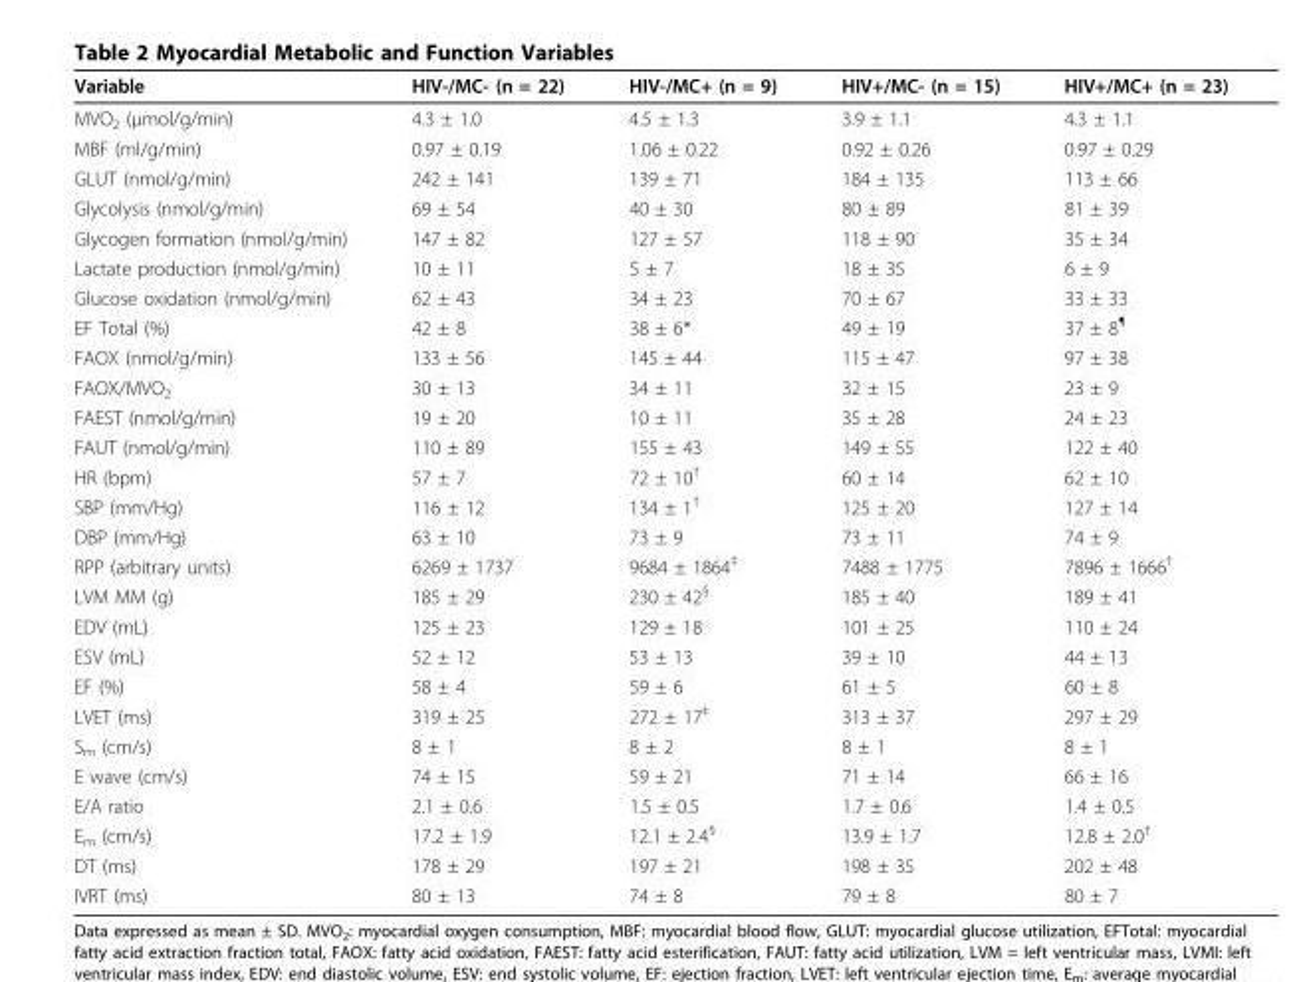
<table><thead><tr><td>Variable</td><td>HIV-/MC- (n = 22)</td><td>HIV-/MC+ (n = 9)</td><td>HIV+/MC- (n = 15)</td><td>HIV+/MC+ (n = 23)</td></tr></thead><tbody><tr><td>MVO<sub>2</sub> (μmol/g/min)</td><td>4.3 ± 1.0</td><td>4.5 ± 1.3</td><td>3.9 ± 1.1</td><td>4.3 ± 1.1</td></tr><tr><td>MBF (ml/g/min)</td><td>0.97 ± 0.19</td><td>1.06 ± 0.22</td><td>0.92 ± 0.26</td><td>0.97 ± 0.29</td></tr><tr><td>GLUT (nmol/g/min)</td><td>242 ± 141</td><td>139 ± 71</td><td>184 ± 135</td><td>113 ± 66</td></tr><tr><td>Glycolysis (nmol/g/min)</td><td>69 ± 54</td><td>40 ± 30</td><td>80 ± 89</td><td>81 ± 39</td></tr><tr><td>Glycogen formation (nmol/g/min)</td><td>147 ± 82</td><td>127 ± 57</td><td>118 ± 90</td><td>35 ± 34</td></tr><tr><td>Lactate production (nmol/g/min)</td><td>10 ± 11</td><td>5 ± 7</td><td>18 ± 35</td><td>6 ± 9</td></tr><tr><td>Glucose oxidation (nmol/g/min)</td><td>62 ± 43</td><td>34 ± 23</td><td>70 ± 67</td><td>33 ± 33</td></tr><tr><td>EF Total (%)</td><td>42 ± 8</td><td>38 ± 6*</td><td>49 ± 19</td><td>37 ± 8<sup>¶</sup></td></tr><tr><td>FAOX (nmol/g/min)</td><td>133 ± 56</td><td>145 ± 44</td><td>115 ± 47</td><td>97 ± 38</td></tr><tr><td>FAOX/MVO<sub>2</sub></td><td>30 ± 13</td><td>34 ± 11</td><td>32 ± 15</td><td>23 ± 9</td></tr><tr><td>FAEST (nmol/g/min)</td><td>19 ± 20</td><td>10 ± 11</td><td>35 ± 28</td><td>24 ± 23</td></tr><tr><td>FAUT (nmol/g/min)</td><td>110 ± 89</td><td>155 ± 43</td><td>149 ± 55</td><td>122 ± 40</td></tr><tr><td>HR (bpm)</td><td>57 ± 7</td><td>72 ± 10<sup>†</sup></td><td>60 ± 14</td><td>62 ± 10</td></tr><tr><td>SBP (mm/Hg)</td><td>116 ± 12</td><td>134 ± 1<sup>†</sup></td><td>125 ± 20</td><td>127 ± 14</td></tr><tr><td>DBP (mm/Hg)</td><td>63 ± 10</td><td>73 ± 9</td><td>73 ± 11</td><td>74 ± 9</td></tr><tr><td>RPP (arbitrary units)</td><td>6269 ± 1737</td><td>9684 ± 1864<sup>‡</sup></td><td>7488 ± 1775</td><td>7896 ± 1666<sup>†</sup></td></tr><tr><td>LVM MM (g)</td><td>185 ± 29</td><td>230 ± 42<sup>§</sup></td><td>185 ± 40</td><td>189 ± 41</td></tr><tr><td>EDV (mL)</td><td>125 ± 23</td><td>129 ± 18</td><td>101 ± 25</td><td>110 ± 24</td></tr><tr><td>ESV (mL)</td><td>52 ± 12</td><td>53 ± 13</td><td>39 ± 10</td><td>44 ± 13</td></tr><tr><td>EF (%)</td><td>58 ± 4</td><td>59 ± 6</td><td>61 ± 5</td><td>60 ± 8</td></tr><tr><td>LVET (ms)</td><td>319 ± 25</td><td>272 ± 17<sup>‡</sup></td><td>313 ± 37</td><td>297 ± 29</td></tr><tr><td>S<sub>m</sub> (cm/s)</td><td>8 ± 1</td><td>8 ± 2</td><td>8 ± 1</td><td>8 ± 1</td></tr><tr><td>E wave (cm/s)</td><td>74 ± 15</td><td>59 ± 21</td><td>71 ± 14</td><td>66 ± 16</td></tr><tr><td>E/A ratio</td><td>2.1 ± 0.6</td><td>1.5 ± 0.5</td><td>1.7 ± 0.6</td><td>1.4 ± 0.5</td></tr><tr><td>E<sub>m</sub> (cm/s)</td><td>17.2 ± 1.9</td><td>12.1 ± 2.4<sup>§</sup></td><td>13.9 ± 1.7</td><td>12.8 ± 2.0<sup>†</sup></td></tr><tr><td>DT (ms)</td><td>178 ± 29</td><td>197 ± 21</td><td>198 ± 35</td><td>202 ± 48</td></tr><tr><td>IVRT (ms)</td><td>80 ± 13</td><td>74 ± 8</td><td>79 ± 8</td><td>80 ± 7</td></tr></tbody></table>